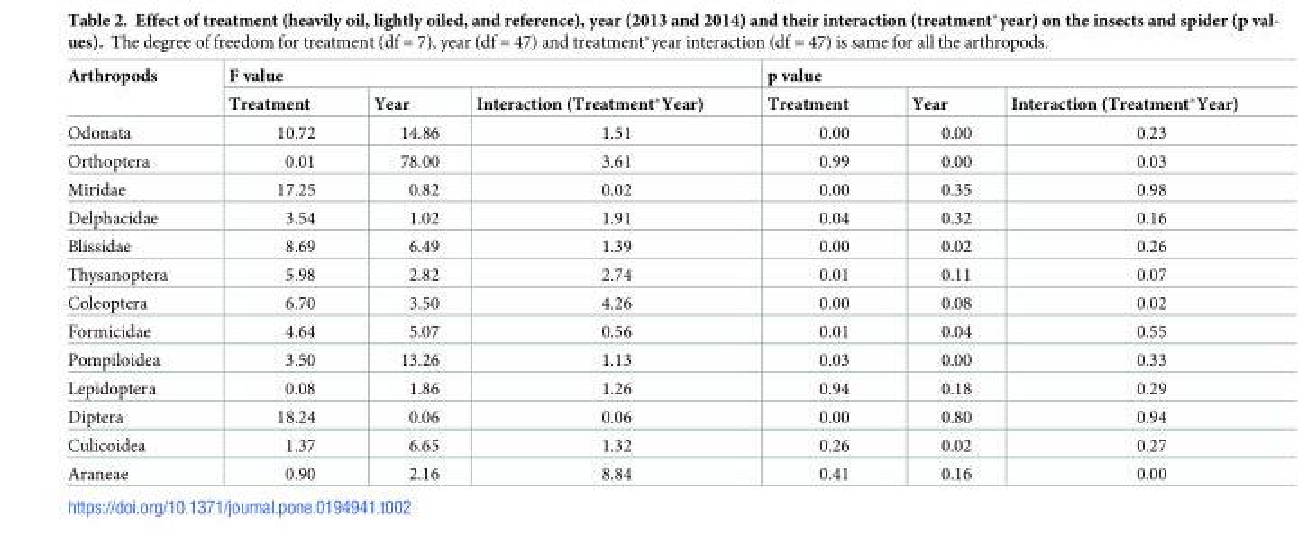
<table><thead><tr><td rowspan="2">Arthropods</td><td colspan="3">F value</td><td colspan="3">p value</td></tr><tr><td>Treatment</td><td>Year</td><td>Interaction (Treatment*Year)</td><td>Treatment</td><td>Year</td><td>Interaction (Treatment*Year)</td></tr></thead><tbody><tr><td>Odonata</td><td>10.72</td><td>14.86</td><td>1.51</td><td>0.00</td><td>0.00</td><td>0.23</td></tr><tr><td>Orthoptera</td><td>0.01</td><td>78.00</td><td>3.61</td><td>0.99</td><td>0.00</td><td>0.03</td></tr><tr><td>Miridae</td><td>17.25</td><td>0.82</td><td>0.02</td><td>0.00</td><td>0.35</td><td>0.98</td></tr><tr><td>Delphacidae</td><td>3.54</td><td>1.02</td><td>1.91</td><td>0.04</td><td>0.32</td><td>0.16</td></tr><tr><td>Blissidae</td><td>8.69</td><td>6.49</td><td>1.39</td><td>0.00</td><td>0.02</td><td>0.26</td></tr><tr><td>Thysanoptera</td><td>5.98</td><td>2.82</td><td>2.74</td><td>0.01</td><td>0.11</td><td>0.07</td></tr><tr><td>Coleoptera</td><td>6.70</td><td>3.50</td><td>4.26</td><td>0.00</td><td>0.08</td><td>0.02</td></tr><tr><td>Formicidae</td><td>4.64</td><td>5.07</td><td>0.56</td><td>0.01</td><td>0.04</td><td>0.55</td></tr><tr><td>Pompiloidea</td><td>3.50</td><td>13.26</td><td>1.13</td><td>0.03</td><td>0.00</td><td>0.33</td></tr><tr><td>Lepidoptera</td><td>0.08</td><td>1.86</td><td>1.26</td><td>0.94</td><td>0.18</td><td>0.29</td></tr><tr><td>Diptera</td><td>18.24</td><td>0.06</td><td>0.06</td><td>0.00</td><td>0.80</td><td>0.94</td></tr><tr><td>Culicoidea</td><td>1.37</td><td>6.65</td><td>1.32</td><td>0.26</td><td>0.02</td><td>0.27</td></tr><tr><td>Araneae</td><td>0.90</td><td>2.16</td><td>8.84</td><td>0.41</td><td>0.16</td><td>0.00</td></tr></tbody></table>